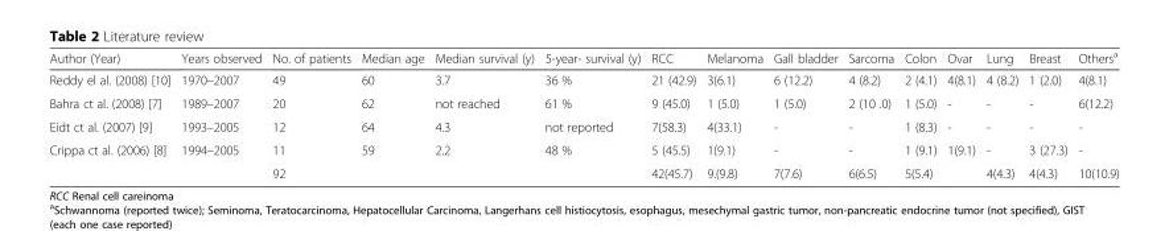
<table><thead><tr><td>Author (Year)</td><td>Years observed</td><td>No. of patients</td><td>Median age</td><td>Median survival (y)</td><td>5-year- survival (y)</td><td>RCC</td><td>Melanoma</td><td>Gall bladder</td><td>Sarcoma</td><td>Colon</td><td>Ovar</td><td>Lung</td><td>Breast</td><td>Others<sup>a</sup></td></tr></thead><tbody><tr><td>Reddy el al. (2008) [10]</td><td>1970–2007</td><td>49</td><td>60</td><td>3.7</td><td>36 %</td><td>21 (42.9)</td><td>3(6.1)</td><td>6 (12.2)</td><td>4 (8.2)</td><td>2 (4.1)</td><td>4(8.1)</td><td>4 (8.2)</td><td>1 (2.0)</td><td>4(8.1)</td></tr><tr><td>Bahra ct al. (2008) [7]</td><td>1989–2007</td><td>20</td><td>62</td><td>not reached</td><td>61 %</td><td>9 (45.0)</td><td>1 (5.0)</td><td>1 (5.0)</td><td>2 (10 .0)</td><td>1 (5.0)</td><td>-</td><td>-</td><td>-</td><td>6(12.2)</td></tr><tr><td>Eidt ct al. (2007) [9]</td><td>1993–2005</td><td>12</td><td>64</td><td>4.3</td><td>not reported</td><td>7(58.3)</td><td>4(33.1)</td><td>-</td><td>-</td><td>1 (8.3)</td><td>-</td><td>-</td><td>-</td><td>-</td></tr><tr><td rowspan="2">Crippa ct al. (2006) [8]</td><td>1994–2005</td><td>11</td><td>59</td><td>2.2</td><td>48 %</td><td>5 (45.5)</td><td>1(9.1)</td><td>-</td><td>-</td><td>1 (9.1)</td><td>1(9.1)</td><td>-</td><td>3 (27.3)</td><td>-</td></tr><tr><td></td><td>92</td><td></td><td></td><td></td><td>42(45.7)</td><td>9.(9.8)</td><td>7(7.6)</td><td>6(6.5)</td><td>5(5.4)</td><td></td><td>4(4.3)</td><td>4(4.3)</td><td>10(10.9)</td></tr></tbody></table>